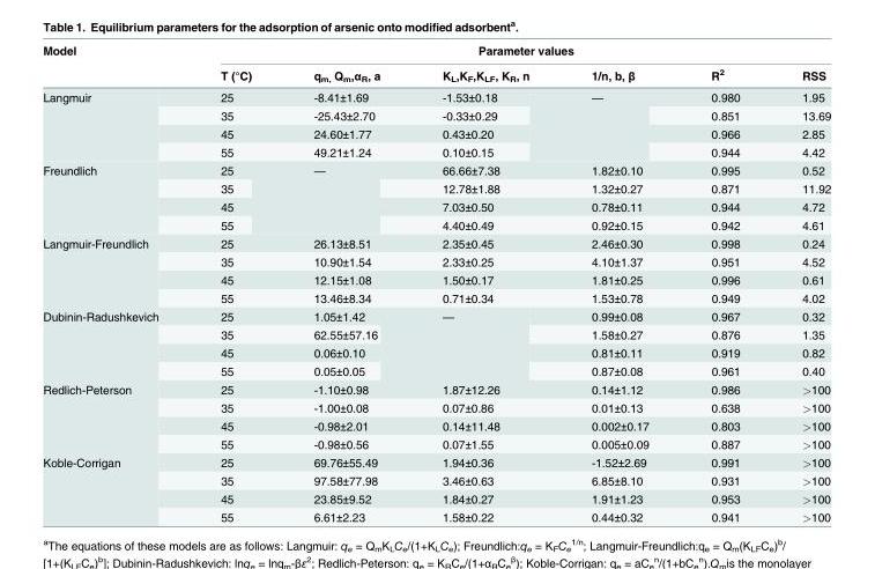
<table><thead><tr><td rowspan="2">Model</td><td colspan="6">Parameter values</td></tr><tr><td>T (°C)</td><td>q<sub>m,</sub> Q<sub>m</sub>,α<sub>R</sub>, a</td><td>K<sub>L</sub>,K<sub>F</sub>,K<sub>LF</sub>, K<sub>R</sub>, n</td><td>1/n, b, β</td><td>R<sup>2</sup></td><td>RSS</td></tr></thead><tbody><tr><td rowspan="4">Langmuir</td><td>25</td><td>-8.41±1.69</td><td>-1.53±0.18</td><td rowspan="4">—</td><td>0.980</td><td>1.95</td></tr><tr><td>35</td><td>-25.43±2.70</td><td>-0.33±0.29</td><td>0.851</td><td>13.69</td></tr><tr><td>45</td><td>24.60±1.77</td><td>0.43±0.20</td><td>0.966</td><td>2.85</td></tr><tr><td>55</td><td>49.21±1.24</td><td>0.10±0.15</td><td>0.944</td><td>4.42</td></tr><tr><td rowspan="4">Freundlich</td><td>25</td><td rowspan="4">—</td><td>66.66±7.38</td><td>1.82±0.10</td><td>0.995</td><td>0.52</td></tr><tr><td>35</td><td>12.78±1.88</td><td>1.32±0.27</td><td>0.871</td><td>11.92</td></tr><tr><td>45</td><td>7.03±0.50</td><td>0.78±0.11</td><td>0.944</td><td>4.72</td></tr><tr><td>55</td><td>4.40±0.49</td><td>0.92±0.15</td><td>0.942</td><td>4.61</td></tr><tr><td rowspan="4">Langmuir-Freundlich</td><td>25</td><td>26.13±8.51</td><td>2.35±0.45</td><td>2.46±0.30</td><td>0.998</td><td>0.24</td></tr><tr><td>35</td><td>10.90±1.54</td><td>2.33±0.25</td><td>4.10±1.37</td><td>0.951</td><td>4.52</td></tr><tr><td>45</td><td>12.15±1.08</td><td>1.50±0.17</td><td>1.81±0.25</td><td>0.996</td><td>0.61</td></tr><tr><td>55</td><td>13.46±8.34</td><td>0.71±0.34</td><td>1.53±0.78</td><td>0.949</td><td>4.02</td></tr><tr><td rowspan="4">Dubinin-Radushkevich</td><td>25</td><td>1.05±1.42</td><td rowspan="4">—</td><td>0.99±0.08</td><td>0.967</td><td>0.32</td></tr><tr><td>35</td><td>62.55±57.16</td><td>1.58±0.27</td><td>0.876</td><td>1.35</td></tr><tr><td>45</td><td>0.06±0.10</td><td>0.81±0.11</td><td>0.919</td><td>0.82</td></tr><tr><td>55</td><td>0.05±0.05</td><td>0.87±0.08</td><td>0.961</td><td>0.40</td></tr><tr><td rowspan="4">Redlich-Peterson</td><td>25</td><td>-1.10±0.98</td><td>1.87±12.26</td><td>0.14±1.12</td><td>0.986</td><td>&gt;100</td></tr><tr><td>35</td><td>-1.00±0.08</td><td>0.07±0.86</td><td>0.01±0.13</td><td>0.638</td><td>&gt;100</td></tr><tr><td>45</td><td>-0.98±2.01</td><td>0.14±11.48</td><td>0.002±0.17</td><td>0.803</td><td>&gt;100</td></tr><tr><td>55</td><td>-0.98±0.56</td><td>0.07±1.55</td><td>0.005±0.09</td><td>0.887</td><td>&gt;100</td></tr><tr><td rowspan="4">Koble-Corrigan</td><td>25</td><td>69.76±55.49</td><td>1.94±0.36</td><td>-1.52±2.69</td><td>0.991</td><td>&gt;100</td></tr><tr><td>35</td><td>97.58±77.98</td><td>3.46±0.63</td><td>6.85±8.10</td><td>0.931</td><td>&gt;100</td></tr><tr><td>45</td><td>23.85±9.52</td><td>1.84±0.27</td><td>1.91±1.23</td><td>0.953</td><td>&gt;100</td></tr><tr><td>55</td><td>6.61±2.23</td><td>1.58±0.22</td><td>0.44±0.32</td><td>0.941</td><td>&gt;100</td></tr></tbody></table>